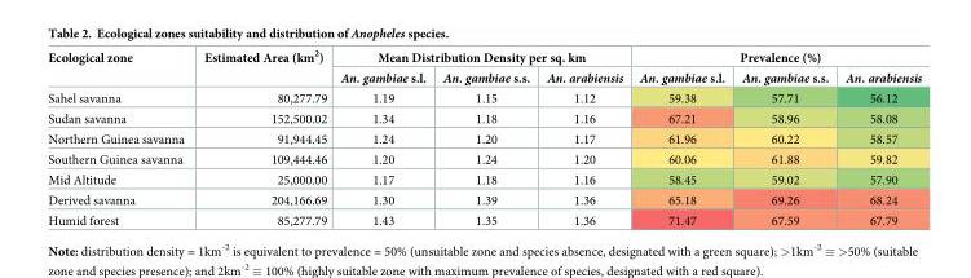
<table><thead><tr><td rowspan="2">Ecological zone</td><td rowspan="2">Estimated Area (km<sup>2</sup>)</td><td colspan="3">Mean Distribution Density per sq. km</td><td colspan="3">Prevalence (%)</td></tr><tr><td>An. gambiae s.l.</td><td>An. gambiae s.s.</td><td>An. arabiensis</td><td>An. gambiae s.l.</td><td>An. gambiae s.s.</td><td>An. arabiensis</td></tr></thead><tbody><tr><td>Sahel savanna</td><td>80,277.79</td><td>1.19</td><td>1.15</td><td>1.12</td><td>59.38</td><td>57.71</td><td>56.12</td></tr><tr><td>Sudan savanna</td><td>152,500.02</td><td>1.34</td><td>1.18</td><td>1.16</td><td>67.21</td><td>58.96</td><td>58.08</td></tr><tr><td>Northern Guinea savanna</td><td>91,944.45</td><td>1.24</td><td>1.20</td><td>1.17</td><td>61.96</td><td>60.22</td><td>58.57</td></tr><tr><td>Southern Guinea savanna</td><td>109,444.46</td><td>1.20</td><td>1.24</td><td>1.20</td><td>60.06</td><td>61.88</td><td>59.82</td></tr><tr><td>Mid Altitude</td><td>25,000.00</td><td>1.17</td><td>1.18</td><td>1.16</td><td>58.45</td><td>59.02</td><td>57.90</td></tr><tr><td>Derived savanna</td><td>204,166.69</td><td>1.30</td><td>1.39</td><td>1.36</td><td>65.18</td><td>69.26</td><td>68.24</td></tr><tr><td>Humid forest</td><td>85,277.79</td><td>1.43</td><td>1.35</td><td>1.36</td><td>71.47</td><td>67.59</td><td>67.79</td></tr></tbody></table>